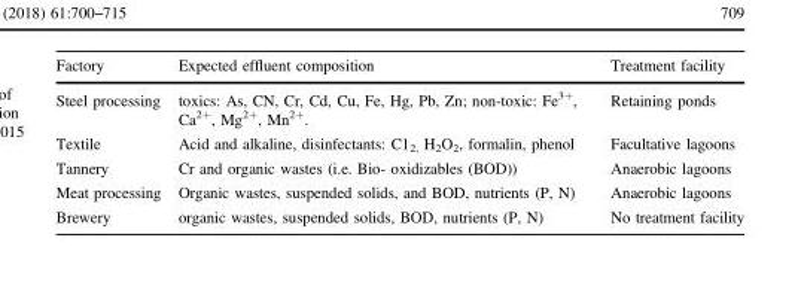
<table><thead><tr><td>Factory</td><td>Expected effluent composition</td><td>Treatment facility</td></tr></thead><tbody><tr><td>Steel processing</td><td>toxics: As, CN, Cr, Cd, Cu, Fe, Hg, Pb, Zn; non-toxic: Fe<sup>3+</sup>, Ca<sup>2+</sup>, Mg<sup>2+</sup>, Mn<sup>2+</sup>.</td><td>Retaining ponds</td></tr><tr><td>Textile</td><td>Acid and alkaline, disinfectants: C1<sub>2,</sub> H<sub>2</sub>O<sub>2</sub>, formalin, phenol</td><td>Facultative lagoons</td></tr><tr><td>Tannery</td><td>Cr and organic wastes (i.e. Bio- oxidizables (BOD))</td><td>Anaerobic lagoons</td></tr><tr><td>Meat processing</td><td>Organic wastes, suspended solids, and BOD, nutrients (P, N)</td><td>Anaerobic lagoons</td></tr><tr><td>Brewery</td><td>organic wastes, suspended solids, BOD, nutrients (P, N)</td><td>No treatment facility</td></tr></tbody></table>